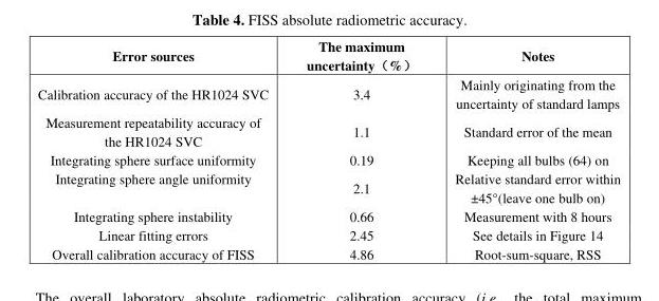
<table><thead><tr><td>Error sources</td><td>The maximum uncertainty（%）</td><td>Notes</td></tr></thead><tbody><tr><td>Calibration accuracy of the HR1024 SVC</td><td>3.4</td><td>Mainly originating from the uncertainty of standard lamps</td></tr><tr><td>Measurement repeatability accuracy of the HR1024 SVC</td><td>1.1</td><td>Standard error of the mean</td></tr><tr><td>Integrating sphere surface uniformity</td><td>0.19</td><td>Keeping all bulbs (64) on</td></tr><tr><td>Integrating sphere angle uniformity</td><td>2.1</td><td>Relative standard error within ±45°(leave one bulb on)</td></tr><tr><td>Integrating sphere instability</td><td>0.66</td><td>Measurement with 8 hours</td></tr><tr><td>Linear fitting errors</td><td>2.45</td><td>See details in Figure 14</td></tr><tr><td>Overall calibration accuracy of FISS</td><td>4.86</td><td>Root-sum-square, RSS</td></tr></tbody></table>